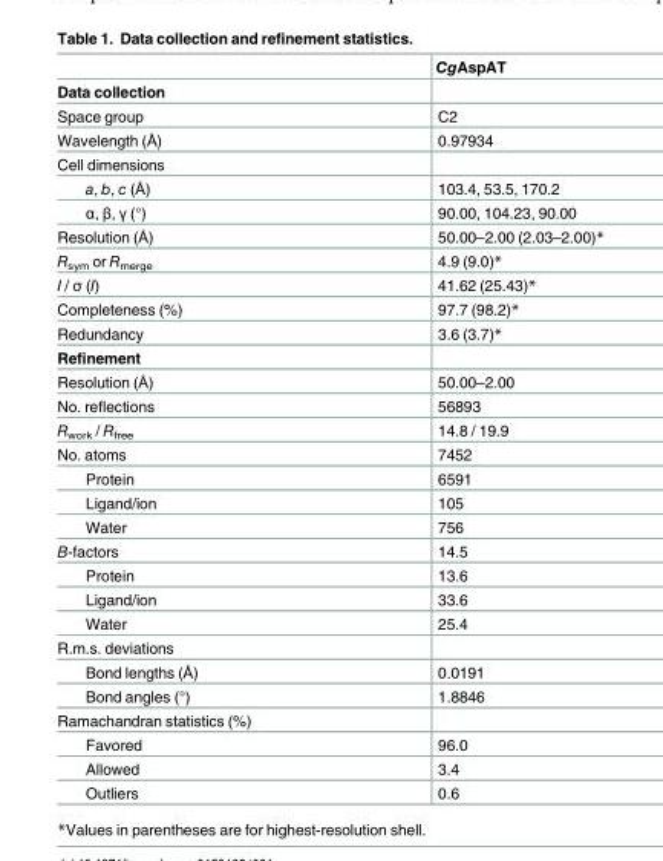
<table><thead><tr><td></td><td>CgAspAT</td></tr></thead><tbody><tr><td colspan="2">Data collection</td></tr><tr><td>Space group</td><td>C2</td></tr><tr><td>Wavelength (Å)</td><td>0.97934</td></tr><tr><td colspan="2">Cell dimensions</td></tr><tr><td>a, b, c (Å)</td><td>103.4, 53.5, 170.2</td></tr><tr><td>α, β, γ (°)</td><td>90.00, 104.23, 90.00</td></tr><tr><td>Resolution (Å)</td><td>50.00–2.00 (2.03–2.00)*</td></tr><tr><td>R<sub>sym</sub> or R<sub>merge</sub></td><td>4.9 (9.0)*</td></tr><tr><td>I / σ (I)</td><td>41.62 (25.43)*</td></tr><tr><td>Completeness (%)</td><td>97.7 (98.2)*</td></tr><tr><td>Redundancy</td><td>3.6 (3.7)*</td></tr><tr><td colspan="2">Refinement</td></tr><tr><td>Resolution (Å)</td><td>50.00–2.00</td></tr><tr><td>No. reflections</td><td>56893</td></tr><tr><td>R<sub>work</sub> / R<sub>free</sub></td><td>14.8 / 19.9</td></tr><tr><td>No. atoms</td><td>7452</td></tr><tr><td>Protein</td><td>6591</td></tr><tr><td>Ligand/ion</td><td>105</td></tr><tr><td>Water</td><td>756</td></tr><tr><td>B-factors</td><td>14.5</td></tr><tr><td>Protein</td><td>13.6</td></tr><tr><td>Ligand/ion</td><td>33.6</td></tr><tr><td>Water</td><td>25.4</td></tr><tr><td colspan="2">R.m.s. deviations</td></tr><tr><td>Bond lengths (Å)</td><td>0.0191</td></tr><tr><td>Bond angles (°)</td><td>1.8846</td></tr><tr><td colspan="2">Ramachandran statistics (%)</td></tr><tr><td>Favored</td><td>96.0</td></tr><tr><td>Allowed</td><td>3.4</td></tr><tr><td>Outliers</td><td>0.6</td></tr></tbody></table>